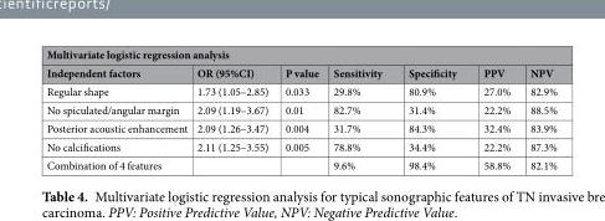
<table><thead><tr><td colspan="7">Multivariate logistic regression analysis</td></tr><tr><td>Independent factors</td><td>OR (95%CI)</td><td>P value</td><td>Sensitivity</td><td>Specificity</td><td>PPV</td><td>NPV</td></tr></thead><tbody><tr><td>Regular shape</td><td>1.73 (1.05–2.85)</td><td>0.033</td><td>29.8%</td><td>80.9%</td><td>27.0%</td><td>82.9%</td></tr><tr><td>No spiculated/angular margin</td><td>2.09 (1.19–3.67)</td><td>0.01</td><td>82.7%</td><td>31.4%</td><td>22.2%</td><td>88.5%</td></tr><tr><td>Posterior acoustic enhancement</td><td>2.09 (1.26–3.47)</td><td>0.004</td><td>31.7%</td><td>84.3%</td><td>32.4%</td><td>83.9%</td></tr><tr><td>No calcifications</td><td>2.11 (1.25–3.55)</td><td>0.005</td><td>78.8%</td><td>34.4%</td><td>22.2%</td><td>87.3%</td></tr><tr><td>Combination of 4 features</td><td></td><td></td><td>9.6%</td><td>98.4%</td><td>58.8%</td><td>82.1%</td></tr></tbody></table>